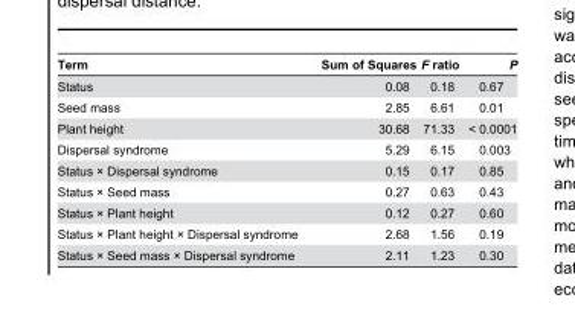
<table><thead><tr><td>Term</td><td>Sum of Squares</td><td>F ratio</td><td>P</td></tr></thead><tbody><tr><td>Status</td><td>0.08</td><td>0.18</td><td>0.67</td></tr><tr><td>Seed mass</td><td>2.85</td><td>6.61</td><td>0.01</td></tr><tr><td>Plant height</td><td>30.68</td><td>71.33</td><td>&lt; 0.0001</td></tr><tr><td>Dispersal syndrome</td><td>5.29</td><td>6.15</td><td>0.003</td></tr><tr><td>Status × Dispersal syndrome</td><td>0.15</td><td>0.17</td><td>0.85</td></tr><tr><td>Status × Seed mass</td><td>0.27</td><td>0.63</td><td>0.43</td></tr><tr><td>Status × Plant height</td><td>0.12</td><td>0.27</td><td>0.60</td></tr><tr><td>Status × Plant height × Dispersal syndrome</td><td>2.68</td><td>1.56</td><td>0.19</td></tr><tr><td>Status × Seed mass × Dispersal syndrome</td><td>2.11</td><td>1.23</td><td>0.30</td></tr></tbody></table>